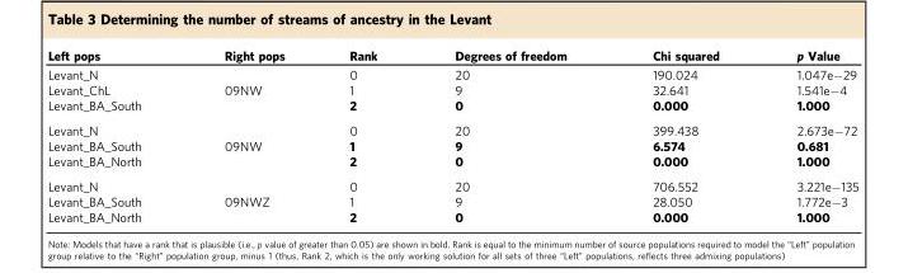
<table><thead><tr><td>Left pops</td><td>Right pops</td><td>Rank</td><td>Degrees of freedom</td><td>Chi squared</td><td>p Value</td></tr></thead><tbody><tr><td>Levant_N</td><td></td><td>0</td><td>20</td><td>190.024</td><td>1.047e−29</td></tr><tr><td>Levant_ChL</td><td>09NW</td><td>1</td><td>9</td><td>32.641</td><td>1.541e−4</td></tr><tr><td>Levant_BA_South</td><td></td><td>2</td><td>0</td><td>0.000</td><td>1.000</td></tr><tr><td>Levant_N</td><td></td><td>0</td><td>20</td><td>399.438</td><td>2.673e−72</td></tr><tr><td>Levant_BA_South</td><td>09NW</td><td>1</td><td>9</td><td>6.574</td><td>0.681</td></tr><tr><td>Levant_BA_North</td><td></td><td>2</td><td>0</td><td>0.000</td><td>1.000</td></tr><tr><td>Levant_N</td><td></td><td>0</td><td>20</td><td>706.552</td><td>3.221e−135</td></tr><tr><td>Levant_BA_South</td><td>09NWZ</td><td>1</td><td>9</td><td>28.050</td><td>1.772e−3</td></tr><tr><td>Levant_BA_North</td><td></td><td>2</td><td>0</td><td>0.000</td><td>1.000</td></tr></tbody></table>